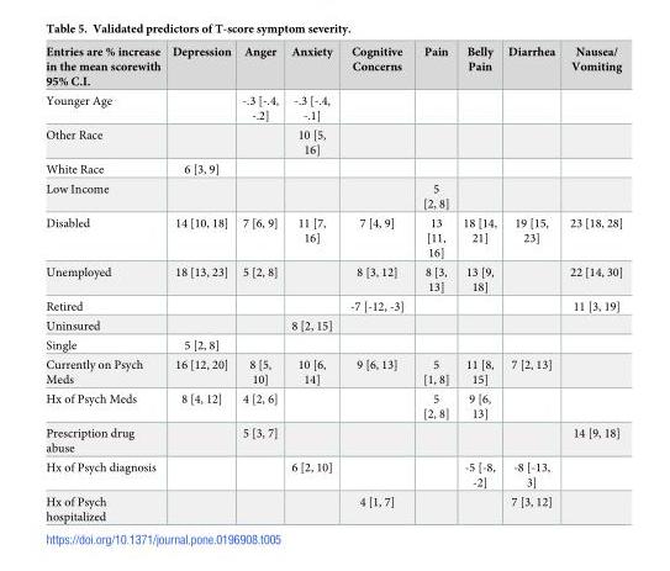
<table><thead><tr><td>Entries are % increase in the mean scorewith 95% C.I.</td><td>Depression</td><td>Anger</td><td>Anxiety</td><td>Cognitive Concerns</td><td>Pain</td><td>Belly Pain</td><td>Diarrhea</td><td>Nausea/ Vomiting</td></tr></thead><tbody><tr><td>Younger Age</td><td></td><td>-.3 [-.4, -.2]</td><td>-.3 [-.4, -.1]</td><td></td><td></td><td></td><td></td><td></td></tr><tr><td>Other Race</td><td></td><td></td><td>10 [5, 16]</td><td></td><td></td><td></td><td></td><td></td></tr><tr><td>White Race</td><td>6 [3, 9]</td><td></td><td></td><td></td><td></td><td></td><td></td><td></td></tr><tr><td>Low Income</td><td></td><td></td><td></td><td></td><td>5 [2, 8]</td><td></td><td></td><td></td></tr><tr><td>Disabled</td><td>14 [10, 18]</td><td>7 [6, 9]</td><td>11 [7, 16]</td><td>7 [4, 9]</td><td>13 [11, 16]</td><td>18 [14, 21]</td><td>19 [15, 23]</td><td>23 [18, 28]</td></tr><tr><td>Unemployed</td><td>18 [13, 23]</td><td>5 [2, 8]</td><td></td><td>8 [3, 12]</td><td>8 [3, 13]</td><td>13 [9, 18]</td><td></td><td>22 [14, 30]</td></tr><tr><td>Retired</td><td></td><td></td><td></td><td>-7 [-12, -3]</td><td></td><td></td><td></td><td>11 [3, 19]</td></tr><tr><td>Uninsured</td><td></td><td></td><td>8 [2, 15]</td><td></td><td></td><td></td><td></td><td></td></tr><tr><td>Single</td><td>5 [2, 8]</td><td></td><td></td><td></td><td></td><td></td><td></td><td></td></tr><tr><td>Currently on Psych Meds</td><td>16 [12, 20]</td><td>8 [5, 10]</td><td>10 [6, 14]</td><td>9 [6, 13]</td><td>5 [1, 8]</td><td>11 [8, 15]</td><td>7 [2, 13]</td><td></td></tr><tr><td>Hx of Psych Meds</td><td>8 [4, 12]</td><td>4 [2, 6]</td><td></td><td></td><td>5 [2, 8]</td><td>9 [6, 13]</td><td></td><td></td></tr><tr><td>Prescription drug abuse</td><td></td><td>5 [3, 7]</td><td></td><td></td><td></td><td></td><td></td><td>14 [9, 18]</td></tr><tr><td>Hx of Psych diagnosis</td><td></td><td></td><td>6 [2, 10]</td><td></td><td></td><td>-5 [-8, -2]</td><td>-8 [-13, 3]</td><td></td></tr><tr><td>Hx of Psych hospitalized</td><td></td><td></td><td></td><td>4 [1, 7]</td><td></td><td></td><td>7 [3, 12]</td><td></td></tr></tbody></table>